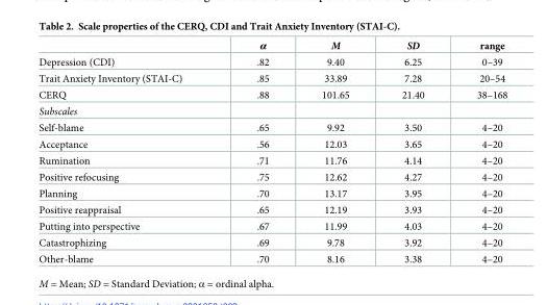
<table><thead><tr><td></td><td>α</td><td>M</td><td>SD</td><td>range</td></tr></thead><tbody><tr><td>Depression (CDI)</td><td>.82</td><td>9.40</td><td>6.25</td><td>0–39</td></tr><tr><td>Trait Anxiety Inventory (STAI-C)</td><td>.85</td><td>33.89</td><td>7.28</td><td>20–54</td></tr><tr><td>CERQ</td><td>.88</td><td>101.65</td><td>21.40</td><td>38–168</td></tr><tr><td colspan="5">Subscales</td></tr><tr><td>Self-blame</td><td>.65</td><td>9.92</td><td>3.50</td><td>4–20</td></tr><tr><td>Acceptance</td><td>.56</td><td>12.03</td><td>3.65</td><td>4–20</td></tr><tr><td>Rumination</td><td>.71</td><td>11.76</td><td>4.14</td><td>4–20</td></tr><tr><td>Positive refocusing</td><td>.75</td><td>12.62</td><td>4.27</td><td>4–20</td></tr><tr><td>Planning</td><td>.70</td><td>13.17</td><td>3.95</td><td>4–20</td></tr><tr><td>Positive reappraisal</td><td>.65</td><td>12.19</td><td>3.93</td><td>4–20</td></tr><tr><td>Putting into perspective</td><td>.67</td><td>11.99</td><td>4.03</td><td>4–20</td></tr><tr><td>Catastrophizing</td><td>.69</td><td>9.78</td><td>3.92</td><td>4–20</td></tr><tr><td>Other-blame</td><td>.70</td><td>8.16</td><td>3.38</td><td>4–20</td></tr></tbody></table>